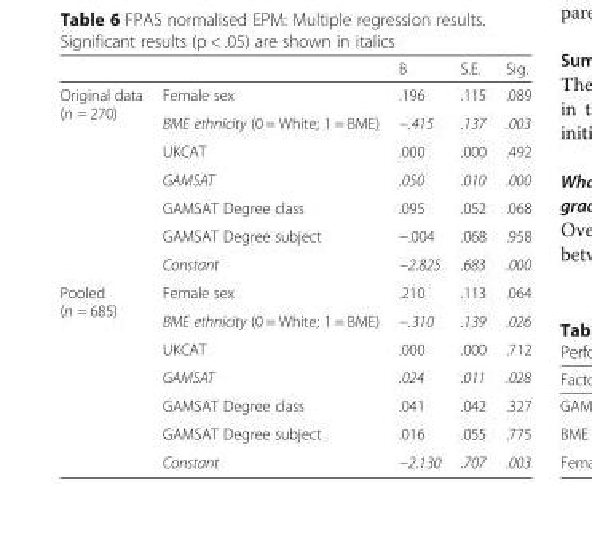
<table><thead><tr><td></td><td></td><td>B</td><td>S.E.</td><td>Sig.</td></tr></thead><tbody><tr><td rowspan="7">Original data (n = 270)</td><td>Female sex</td><td>.196</td><td>.115</td><td>.089</td></tr><tr><td>BME ethnicity (0 = White; 1 = BME)</td><td>−.415</td><td>.137</td><td>.003</td></tr><tr><td>UKCAT</td><td>.000</td><td>.000</td><td>.492</td></tr><tr><td>GAMSAT</td><td>.050</td><td>.010</td><td>.000</td></tr><tr><td>GAMSAT Degree class</td><td>.095</td><td>.052</td><td>.068</td></tr><tr><td>GAMSAT Degree subject</td><td>−.004</td><td>.068</td><td>.958</td></tr><tr><td>Constant</td><td>−2.825</td><td>.683</td><td>.000</td></tr><tr><td rowspan="7">Pooled (n = 685)</td><td>Female sex</td><td>.210</td><td>.113</td><td>.064</td></tr><tr><td>BME ethnicity (0 = White; 1 = BME)</td><td>−.310</td><td>.139</td><td>.026</td></tr><tr><td>UKCAT</td><td>.000</td><td>.000</td><td>.712</td></tr><tr><td>GAMSAT</td><td>.024</td><td>.011</td><td>.028</td></tr><tr><td>GAMSAT Degree class</td><td>.041</td><td>.042</td><td>.327</td></tr><tr><td>GAMSAT Degree subject</td><td>.016</td><td>.055</td><td>.775</td></tr><tr><td>Constant</td><td>−2.130</td><td>.707</td><td>.003</td></tr></tbody></table>